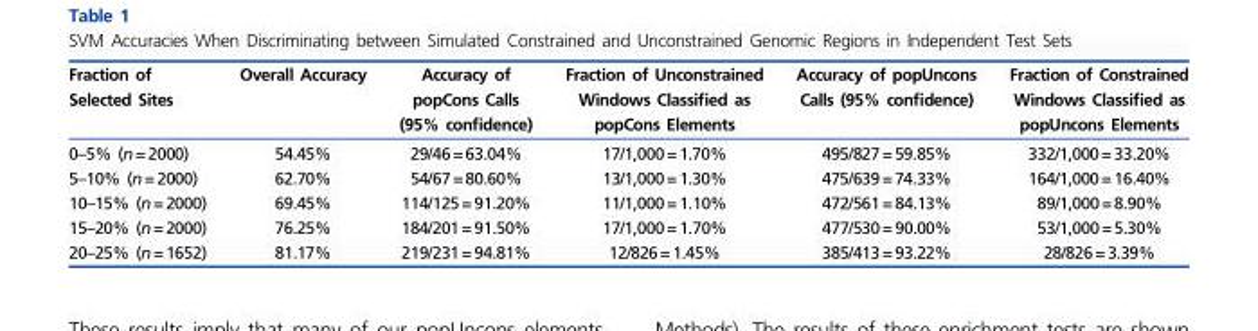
<table><thead><tr><td>Fraction of Selected Sites</td><td>Overall Accuracy</td><td>Accuracy of popCons Calls (95% confidence)</td><td>Fraction of Unconstrained Windows Classified as popCons Elements</td><td>Accuracy of popUncons Calls (95% confidence)</td><td>Fraction of Constrained Windows Classified as popUncons Elements</td></tr></thead><tbody><tr><td>0–5% (n=2000)</td><td>54.45%</td><td>29/46=63.04%</td><td>17/1,000=1.70%</td><td>495/827=59.85%</td><td>332/1,000=33.20%</td></tr><tr><td>5–10% (n=2000)</td><td>62.70%</td><td>54/67=80.60%</td><td>13/1,000=1.30%</td><td>475/639=74.33%</td><td>164/1,000=16.40%</td></tr><tr><td>10–15% (n=2000)</td><td>69.45%</td><td>114/125=91.20%</td><td>11/1,000=1.10%</td><td>472/561=84.13%</td><td>89/1,000=8.90%</td></tr><tr><td>15–20% (n=2000)</td><td>76.25%</td><td>184/201=91.50%</td><td>17/1,000=1.70%</td><td>477/530=90.00%</td><td>53/1,000=5.30%</td></tr><tr><td>20–25% (n=1652)</td><td>81.17%</td><td>219/231=94.81%</td><td>12/826=1.45%</td><td>385/413=93.22%</td><td>28/826=3.39%</td></tr></tbody></table>